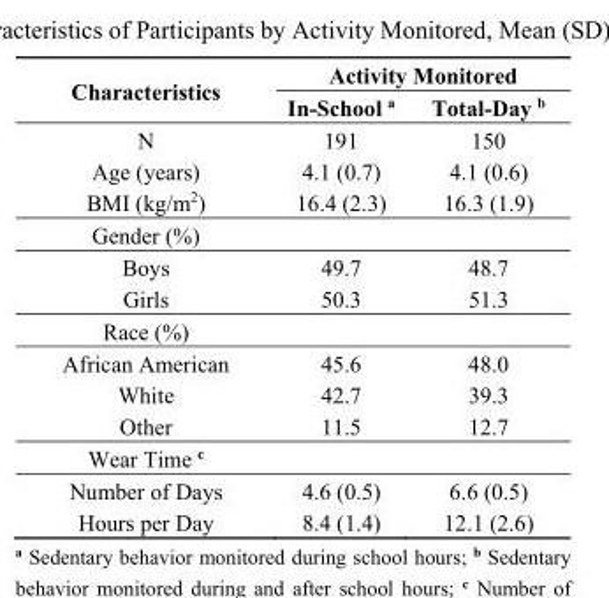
<table><thead><tr><td rowspan="2">Characteristics</td><td colspan="2">Activity Monitored</td></tr><tr><td>In-School <sup>a</sup></td><td>Total-Day <sup>b</sup></td></tr></thead><tbody><tr><td>N</td><td>191</td><td>150</td></tr><tr><td>Age (years)</td><td>4.1 (0.7)</td><td>4.1 (0.6)</td></tr><tr><td>BMI (kg/m<sup>2</sup>)</td><td>16.4 (2.3)</td><td>16.3 (1.9)</td></tr><tr><td colspan="3">Gender (%)</td></tr><tr><td>Boys</td><td>49.7</td><td>48.7</td></tr><tr><td>Girls</td><td>50.3</td><td>51.3</td></tr><tr><td colspan="3">Race (%)</td></tr><tr><td>African American</td><td>45.6</td><td>48.0</td></tr><tr><td>White</td><td>42.7</td><td>39.3</td></tr><tr><td>Other</td><td>11.5</td><td>12.7</td></tr><tr><td colspan="3">Wear Time <sup>c</sup></td></tr><tr><td>Number of Days</td><td>4.6 (0.5)</td><td>6.6 (0.5)</td></tr><tr><td>Hours per Day</td><td>8.4 (1.4)</td><td>12.1 (2.6)</td></tr></tbody></table>